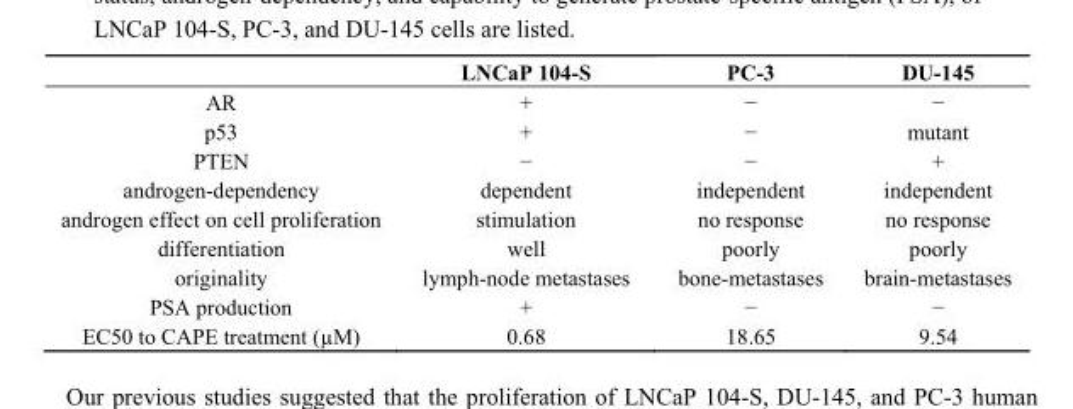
<table><thead><tr><td></td><td>LNCaP 104-S</td><td>PC-3</td><td>DU-145</td></tr></thead><tbody><tr><td>AR</td><td>+</td><td>−</td><td>−</td></tr><tr><td>p53</td><td>+</td><td>−</td><td>mutant</td></tr><tr><td>PTEN</td><td>−</td><td>−</td><td>+</td></tr><tr><td>androgen-dependency</td><td>dependent</td><td>independent</td><td>independent</td></tr><tr><td>androgen effect on cell proliferation</td><td>stimulation</td><td>no response</td><td>no response</td></tr><tr><td>differentiation</td><td>well</td><td>poorly</td><td>poorly</td></tr><tr><td>originality</td><td>lymph-node metastases</td><td>bone-metastases</td><td>brain-metastases</td></tr><tr><td>PSA production</td><td>+</td><td>−</td><td>−</td></tr><tr><td>EC50 to CAPE treatment (µM)</td><td>0.68</td><td>18.65</td><td>9.54</td></tr></tbody></table>